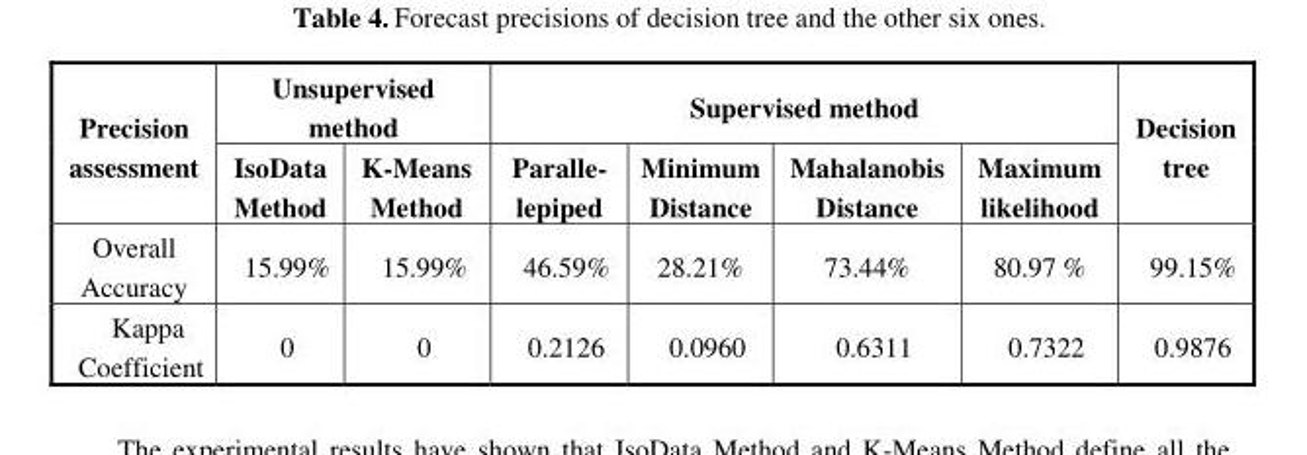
<table><thead><tr><td rowspan="2">Precision assessment</td><td colspan="2">Unsupervised method</td><td colspan="4">Supervised method</td><td rowspan="2">Decision tree</td></tr><tr><td>IsoData Method</td><td>K-Means Method</td><td>Paralle- lepiped</td><td>Minimum Distance</td><td>Mahalanobis Distance</td><td>Maximum likelihood</td></tr></thead><tbody><tr><td>Overall Accuracy</td><td>15.99%</td><td>15.99%</td><td>46.59%</td><td>28.21%</td><td>73.44%</td><td>80.97 %</td><td>99.15%</td></tr><tr><td>Kappa Coefficient</td><td>0</td><td>0</td><td>0.2126</td><td>0.0960</td><td>0.6311</td><td>0.7322</td><td>0.9876</td></tr></tbody></table>